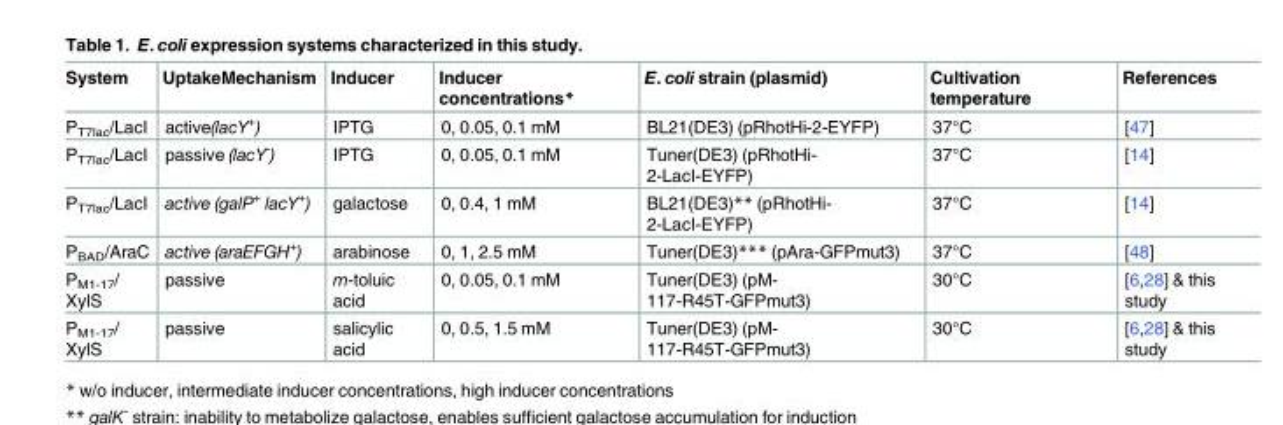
<table><thead><tr><td>System</td><td>UptakeMechanism</td><td>Inducer</td><td>Inducer concentrations*</td><td>E. coli strain (plasmid)</td><td>Cultivation temperature</td><td>References</td></tr></thead><tbody><tr><td>P<sub>T7lac</sub>/LacI</td><td>active(lacY<sup>+</sup>)</td><td>IPTG</td><td>0, 0.05, 0.1 mM</td><td>BL21(DE3) (pRhotHi-2-EYFP)</td><td>37°C</td><td>[47]</td></tr><tr><td>P<sub>T7lac</sub>/LacI</td><td>passive (lacY<sup>-</sup>)</td><td>IPTG</td><td>0, 0.05, 0.1 mM</td><td>Tuner(DE3) (pRhotHi- 2-LacI-EYFP)</td><td>37°C</td><td>[14]</td></tr><tr><td>P<sub>T7lac</sub>/LacI</td><td>active (galP<sup>+</sup> lacY<sup>+</sup>)</td><td>galactose</td><td>0, 0.4, 1 mM</td><td>BL21(DE3)** (pRhotHi- 2-LacI-EYFP)</td><td>37°C</td><td>[14]</td></tr><tr><td>P<sub>BAD</sub>/AraC</td><td>active (araEFGH<sup>+</sup>)</td><td>arabinose</td><td>0, 1, 2.5 mM</td><td>Tuner(DE3)*** (pAra-GFPmut3)</td><td>37°C</td><td>[48]</td></tr><tr><td>P<sub>M1-17</sub>/ XylS</td><td>passive</td><td>m-toluic acid</td><td>0, 0.05, 0.1 mM</td><td>Tuner(DE3) (pM- 117-R45T-GFPmut3)</td><td>30°C</td><td>[6,28] &amp; this study</td></tr><tr><td>P<sub>M1-17</sub>/ XylS</td><td>passive</td><td>salicylic acid</td><td>0, 0.5, 1.5 mM</td><td>Tuner(DE3) (pM- 117-R45T-GFPmut3)</td><td>30°C</td><td>[6,28] &amp; this study</td></tr></tbody></table>